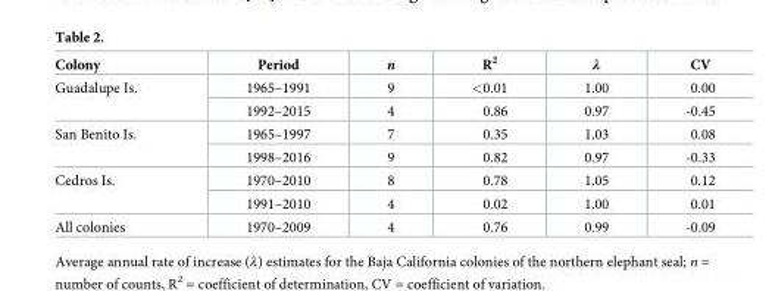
<table><thead><tr><td>Colony</td><td>Period</td><td>n</td><td>R<sup>2</sup></td><td>λ</td><td>CV</td></tr></thead><tbody><tr><td rowspan="2">Guadalupe Is.</td><td>1965–1991</td><td>9</td><td>&lt;0.01</td><td>1.00</td><td>0.00</td></tr><tr><td>1992–2015</td><td>4</td><td>0.86</td><td>0.97</td><td>-0.45</td></tr><tr><td rowspan="2">San Benito Is.</td><td>1965–1997</td><td>7</td><td>0.35</td><td>1.03</td><td>0.08</td></tr><tr><td>1998–2016</td><td>9</td><td>0.82</td><td>0.97</td><td>-0.33</td></tr><tr><td rowspan="2">Cedros Is.</td><td>1970–2010</td><td>8</td><td>0.78</td><td>1.05</td><td>0.12</td></tr><tr><td>1991–2010</td><td>4</td><td>0.02</td><td>1.00</td><td>0.01</td></tr><tr><td>All colonies</td><td>1970–2009</td><td>4</td><td>0.76</td><td>0.99</td><td>-0.09</td></tr></tbody></table>